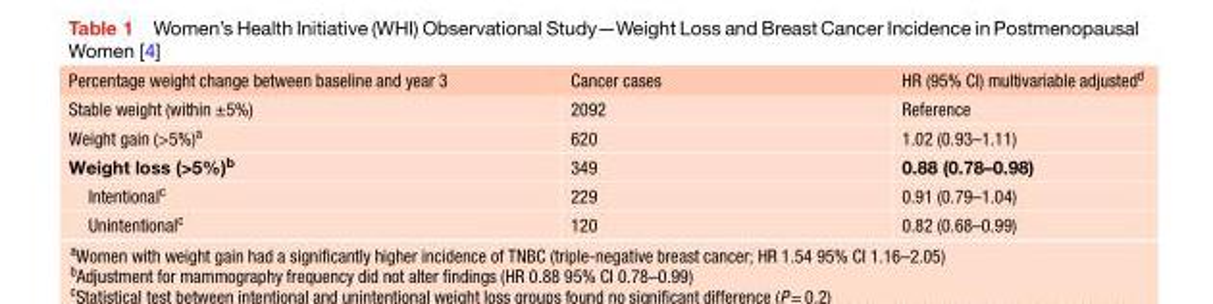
<table><thead><tr><td>Percentage weight change between baseline and year 3</td><td>Cancer cases</td><td>HR (95% CI) multivariable adjusted<sup>d</sup></td></tr></thead><tbody><tr><td>Stable weight (within ±5%)</td><td>2092</td><td>Reference</td></tr><tr><td>Weight gain (&gt;5%)<sup>a</sup></td><td>620</td><td>1.02 (0.93–1.11)</td></tr><tr><td>Weight loss (&gt;5%)<sup>b</sup></td><td>349</td><td>0.88 (0.78–0.98)</td></tr><tr><td>Intentional<sup>c</sup></td><td>229</td><td>0.91 (0.79–1.04)</td></tr><tr><td>Unintentional<sup>c</sup></td><td>120</td><td>0.82 (0.68–0.99)</td></tr></tbody></table>